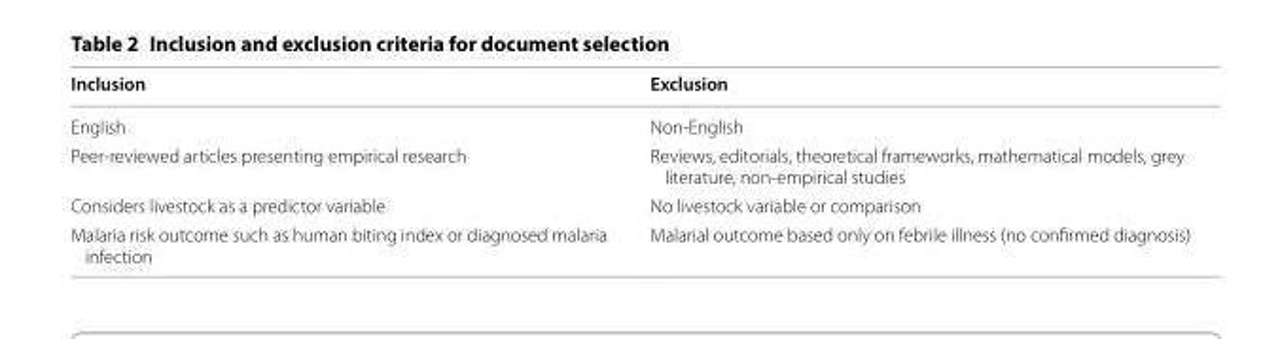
<table><thead><tr><td>Inclusion</td><td>Exclusion</td></tr></thead><tbody><tr><td>English</td><td>Non‑English</td></tr><tr><td>Peer‑reviewed articles presenting empirical research</td><td>Reviews, editorials, theoretical frameworks, mathematical models, grey literature, non‑empirical studies</td></tr><tr><td>Considers livestock as a predictor variable</td><td>No livestock variable or comparison</td></tr><tr><td>Malaria risk outcome such as human biting index or diagnosed malaria infection</td><td>Malarial outcome based only on febrile illness (no confirmed diagnosis)</td></tr></tbody></table>